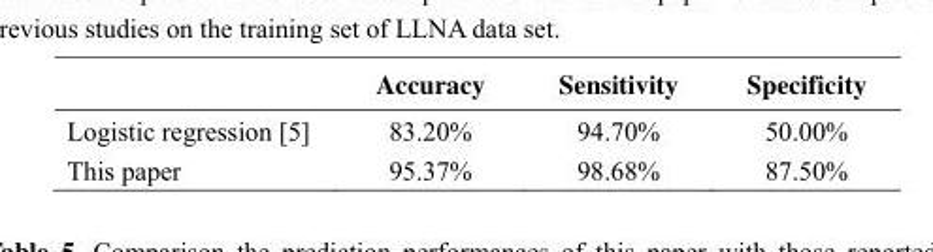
<table><thead><tr><td></td><td>Accuracy</td><td>Sensitivity</td><td>Specificity</td></tr></thead><tbody><tr><td>Logistic regression [5]</td><td>83.20%</td><td>94.70%</td><td>50.00%</td></tr><tr><td>This paper</td><td>95.37%</td><td>98.68%</td><td>87.50%</td></tr></tbody></table>